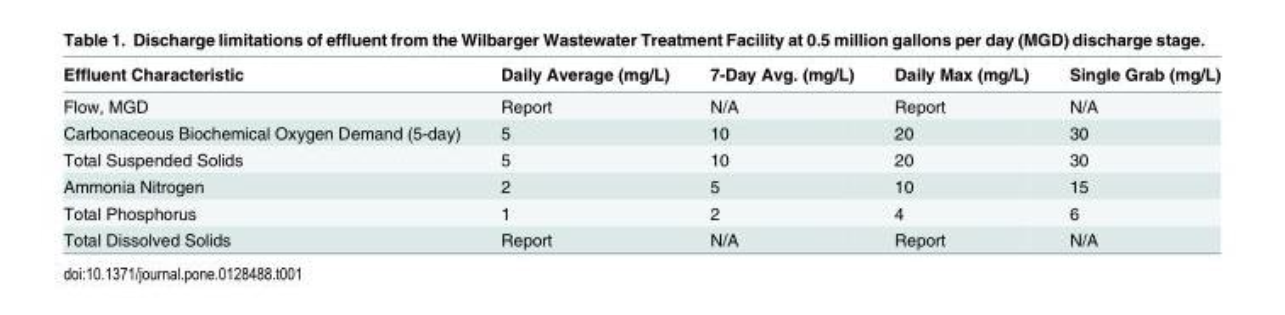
<table><thead><tr><td>Effluent Characteristic</td><td>Daily Average (mg/L)</td><td>7-Day Avg. (mg/L)</td><td>Daily Max (mg/L)</td><td>Single Grab (mg/L)</td></tr></thead><tbody><tr><td>Flow, MGD</td><td>Report</td><td>N/A</td><td>Report</td><td>N/A</td></tr><tr><td>Carbonaceous Biochemical Oxygen Demand (5-day)</td><td>5</td><td>10</td><td>20</td><td>30</td></tr><tr><td>Total Suspended Solids</td><td>5</td><td>10</td><td>20</td><td>30</td></tr><tr><td>Ammonia Nitrogen</td><td>2</td><td>5</td><td>10</td><td>15</td></tr><tr><td>Total Phosphorus</td><td>1</td><td>2</td><td>4</td><td>6</td></tr><tr><td>Total Dissolved Solids</td><td>Report</td><td>N/A</td><td>Report</td><td>N/A</td></tr></tbody></table>